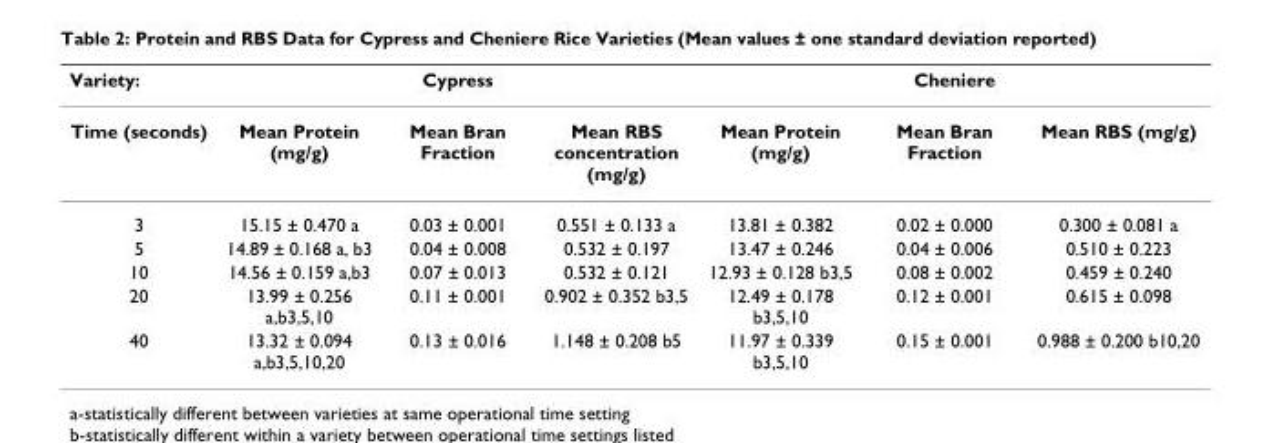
<table><thead><tr><td rowspan="2">Variety: Time (seconds)</td><td colspan="3">Cypress</td><td colspan="3">Cheniere</td></tr><tr><td>Mean Protein (mg/g)</td><td>Mean Bran Fraction</td><td>Mean RBS concentration (mg/g)</td><td>Mean Protein (mg/g)</td><td>Mean Bran Fraction</td><td>Mean RBS (mg/g)</td></tr></thead><tbody><tr><td>3</td><td>15.15 ± 0.470 a</td><td>0.03 ± 0.001</td><td>0.551 ± 0.133 a</td><td>13.81 ± 0.382</td><td>0.02 ± 0.000</td><td>0.300 ± 0.081 a</td></tr><tr><td>5</td><td>14.89 ± 0.168 a, b3</td><td>0.04 ± 0.008</td><td>0.532 ± 0.197</td><td>13.47 ± 0.246</td><td>0.04 ± 0.006</td><td>0.510 ± 0.223</td></tr><tr><td>10</td><td>14.56 ± 0.159 a,b3</td><td>0.07 ± 0.013</td><td>0.532 ± 0.121</td><td>12.93 ± 0.128 b3,5</td><td>0.08 ± 0.002</td><td>0.459 ± 0.240</td></tr><tr><td>20</td><td>13.99 ± 0.256 a,b3,5,10</td><td>0.11 ± 0.001</td><td>0.902 ± 0.352 b3,5</td><td>12.49 ± 0.178 b3,5,10</td><td>0.12 ± 0.001</td><td>0.615 ± 0.098</td></tr><tr><td>40</td><td>13.32 ± 0.094 a,b3,5,10,20</td><td>0.13 ± 0.016</td><td>1.148 ± 0.208 b5</td><td>11.97 ± 0.339 b3,5,10</td><td>0.15 ± 0.001</td><td>0.988 ± 0.200 b10,20</td></tr></tbody></table>